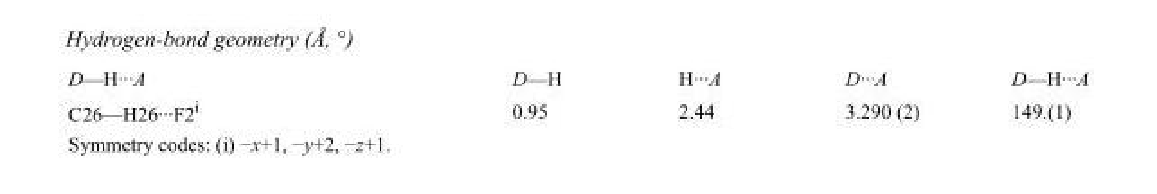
<table><tbody><tr><td>D—H···A</td><td>D—H</td><td>H···A</td><td>D···A</td><td>D—H···A</td></tr><tr><td>C26—H26···F2<sup>i</sup></td><td>0.95</td><td>2.44</td><td>3.290 (2)</td><td>149.(1)</td></tr></tbody></table>